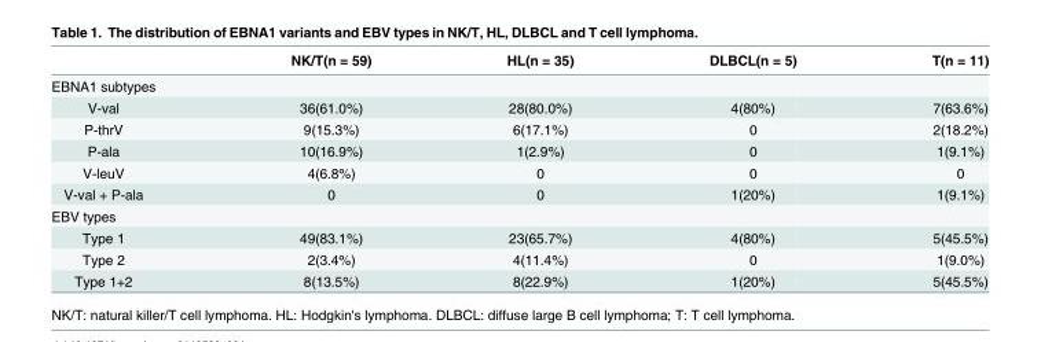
<table><thead><tr><td></td><td>NK/T(n = 59)</td><td>HL(n = 35)</td><td>DLBCL(n = 5)</td><td>T(n = 11)</td></tr></thead><tbody><tr><td colspan="5">EBNA1 subtypes</td></tr><tr><td>V-val</td><td>36(61.0%)</td><td>28(80.0%)</td><td>4(80%)</td><td>7(63.6%)</td></tr><tr><td>P-thrV</td><td>9(15.3%)</td><td>6(17.1%)</td><td>0</td><td>2(18.2%)</td></tr><tr><td>P-ala</td><td>10(16.9%)</td><td>1(2.9%)</td><td>0</td><td>1(9.1%)</td></tr><tr><td>V-leuV</td><td>4(6.8%)</td><td>0</td><td>0</td><td>0</td></tr><tr><td>V-val + P-ala</td><td>0</td><td>0</td><td>1(20%)</td><td>1(9.1%)</td></tr><tr><td colspan="5">EBV types</td></tr><tr><td>Type 1</td><td>49(83.1%)</td><td>23(65.7%)</td><td>4(80%)</td><td>5(45.5%)</td></tr><tr><td>Type 2</td><td>2(3.4%)</td><td>4(11.4%)</td><td>0</td><td>1(9.0%)</td></tr><tr><td>Type 1+2</td><td>8(13.5%)</td><td>8(22.9%)</td><td>1(20%)</td><td>5(45.5%)</td></tr></tbody></table>